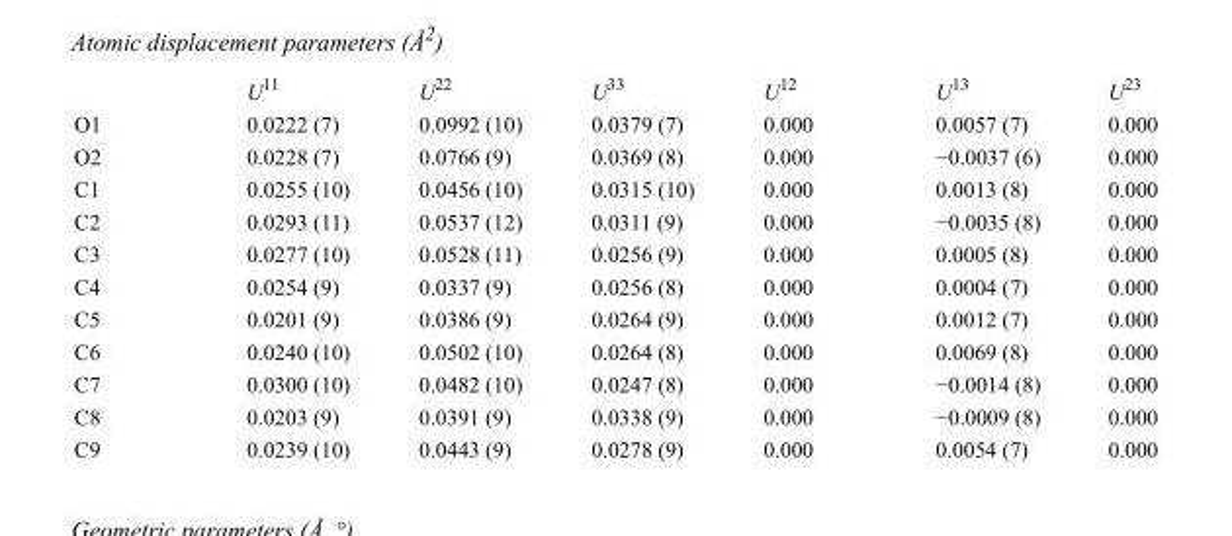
<table><thead><tr><td></td><td>U<sup>11</sup></td><td>U<sup>22</sup></td><td>U<sup>33</sup></td><td>U<sup>12</sup></td><td>U<sup>13</sup></td><td>U<sup>23</sup></td></tr></thead><tbody><tr><td>O1</td><td>0.0222 (7)</td><td>0.0992 (10)</td><td>0.0379 (7)</td><td>0.000</td><td>0.0057 (7)</td><td>0.000</td></tr><tr><td>O2</td><td>0.0228 (7)</td><td>0.0766 (9)</td><td>0.0369 (8)</td><td>0.000</td><td>−0.0037 (6)</td><td>0.000</td></tr><tr><td>C1</td><td>0.0255 (10)</td><td>0.0456 (10)</td><td>0.0315 (10)</td><td>0.000</td><td>0.0013 (8)</td><td>0.000</td></tr><tr><td>C2</td><td>0.0293 (11)</td><td>0.0537 (12)</td><td>0.0311 (9)</td><td>0.000</td><td>−0.0035 (8)</td><td>0.000</td></tr><tr><td>C3</td><td>0.0277 (10)</td><td>0.0528 (11)</td><td>0.0256 (9)</td><td>0.000</td><td>0.0005 (8)</td><td>0.000</td></tr><tr><td>C4</td><td>0.0254 (9)</td><td>0.0337 (9)</td><td>0.0256 (8)</td><td>0.000</td><td>0.0004 (7)</td><td>0.000</td></tr><tr><td>C5</td><td>0.0201 (9)</td><td>0.0386 (9)</td><td>0.0264 (9)</td><td>0.000</td><td>0.0012 (7)</td><td>0.000</td></tr><tr><td>C6</td><td>0.0240 (10)</td><td>0.0502 (10)</td><td>0.0264 (8)</td><td>0.000</td><td>0.0069 (8)</td><td>0.000</td></tr><tr><td>C7</td><td>0.0300 (10)</td><td>0.0482 (10)</td><td>0.0247 (8)</td><td>0.000</td><td>−0.0014 (8)</td><td>0.000</td></tr><tr><td>C8</td><td>0.0203 (9)</td><td>0.0391 (9)</td><td>0.0338 (9)</td><td>0.000</td><td>−0.0009 (8)</td><td>0.000</td></tr><tr><td>C9</td><td>0.0239 (10)</td><td>0.0443 (9)</td><td>0.0278 (9)</td><td>0.000</td><td>0.0054 (7)</td><td>0.000</td></tr></tbody></table>